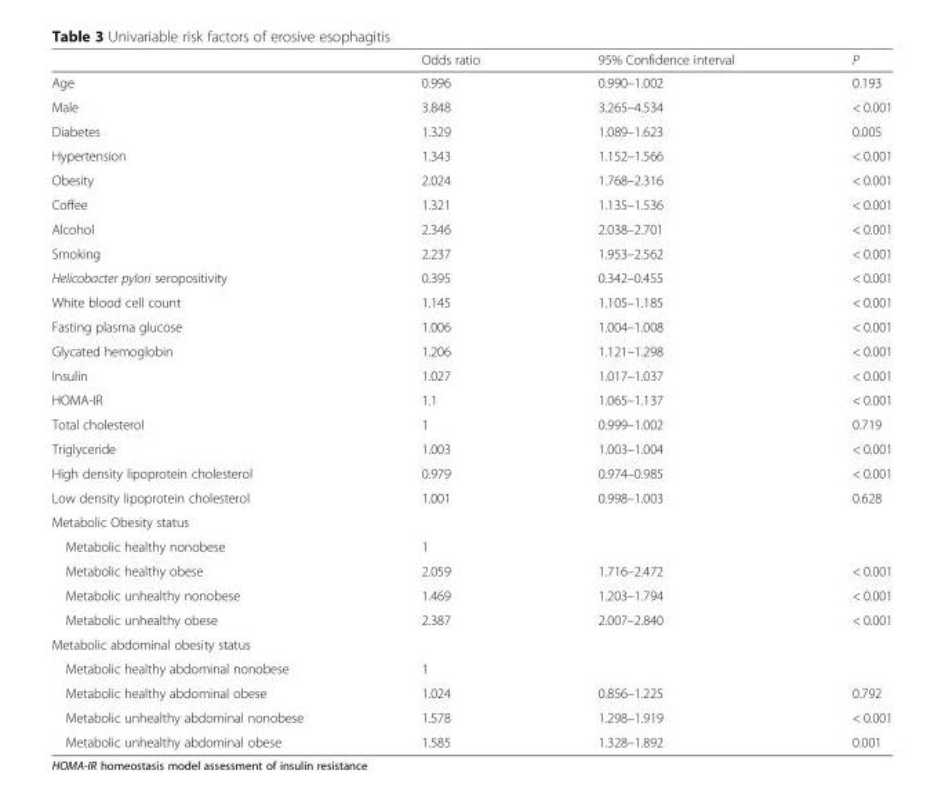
<table><thead><tr><td></td><td>Odds ratio</td><td>95% Confidence interval</td><td>P</td></tr></thead><tbody><tr><td>Age</td><td>0.996</td><td>0.990–1.002</td><td>0.193</td></tr><tr><td>Male</td><td>3.848</td><td>3.265–4.534</td><td>&lt; 0.001</td></tr><tr><td>Diabetes</td><td>1.329</td><td>1.089–1.623</td><td>0.005</td></tr><tr><td>Hypertension</td><td>1.343</td><td>1.152–1.566</td><td>&lt; 0.001</td></tr><tr><td>Obesity</td><td>2.024</td><td>1.768–2.316</td><td>&lt; 0.001</td></tr><tr><td>Coffee</td><td>1.321</td><td>1.135–1.536</td><td>&lt; 0.001</td></tr><tr><td>Alcohol</td><td>2.346</td><td>2.038–2.701</td><td>&lt; 0.001</td></tr><tr><td>Smoking</td><td>2.237</td><td>1.953–2.562</td><td>&lt; 0.001</td></tr><tr><td>Helicobacter pylori seropositivity</td><td>0.395</td><td>0.342–0.455</td><td>&lt; 0.001</td></tr><tr><td>White blood cell count</td><td>1.145</td><td>1.105–1.185</td><td>&lt; 0.001</td></tr><tr><td>Fasting plasma glucose</td><td>1.006</td><td>1.004–1.008</td><td>&lt; 0.001</td></tr><tr><td>Glycated hemoglobin</td><td>1.206</td><td>1.121–1.298</td><td>&lt; 0.001</td></tr><tr><td>Insulin</td><td>1.027</td><td>1.017–1.037</td><td>&lt; 0.001</td></tr><tr><td>HOMA-IR</td><td>1.1</td><td>1.065–1.137</td><td>&lt; 0.001</td></tr><tr><td>Total cholesterol</td><td>1</td><td>0.999–1.002</td><td>0.719</td></tr><tr><td>Triglyceride</td><td>1.003</td><td>1.003–1.004</td><td>&lt; 0.001</td></tr><tr><td>High density lipoprotein cholesterol</td><td>0.979</td><td>0.974–0.985</td><td>&lt; 0.001</td></tr><tr><td>Low density lipoprotein cholesterol</td><td>1.001</td><td>0.998–1.003</td><td>0.628</td></tr><tr><td colspan="4">Metabolic Obesity status</td></tr><tr><td>Metabolic healthy nonobese</td><td>1</td><td></td><td></td></tr><tr><td>Metabolic healthy obese</td><td>2.059</td><td>1.716–2.472</td><td>&lt; 0.001</td></tr><tr><td>Metabolic unhealthy nonobese</td><td>1.469</td><td>1.203–1.794</td><td>&lt; 0.001</td></tr><tr><td>Metabolic unhealthy obese</td><td>2.387</td><td>2.007–2.840</td><td>&lt; 0.001</td></tr><tr><td colspan="4">Metabolic abdominal obesity status</td></tr><tr><td>Metabolic healthy abdominal nonobese</td><td>1</td><td></td><td></td></tr><tr><td>Metabolic healthy abdominal obese</td><td>1.024</td><td>0.856–1.225</td><td>0.792</td></tr><tr><td>Metabolic unhealthy abdominal nonobese</td><td>1.578</td><td>1.298–1.919</td><td>&lt; 0.001</td></tr><tr><td>Metabolic unhealthy abdominal obese</td><td>1.585</td><td>1.328–1.892</td><td>0.001</td></tr></tbody></table>